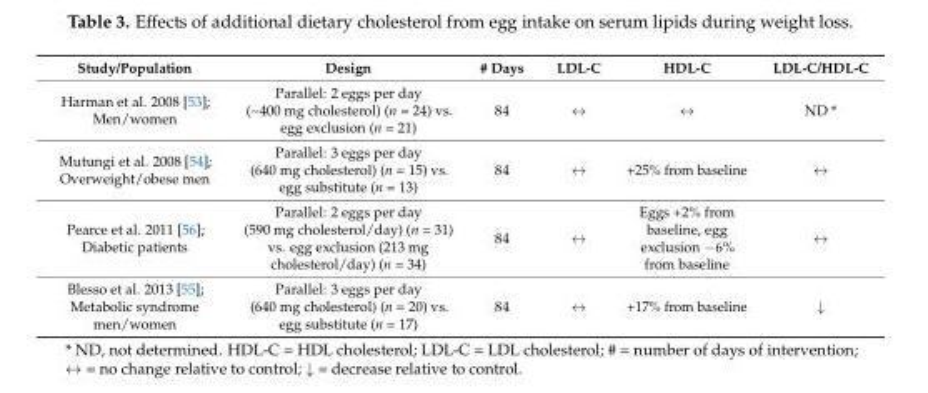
<table><thead><tr><td>Study/Population</td><td>Design</td><td># Days</td><td>LDL-C</td><td>HDL-C</td><td>LDL-C/HDL-C</td></tr></thead><tbody><tr><td>Harman et al. 2008 [53]; Men/women</td><td>Parallel: 2 eggs per day (~400 mg cholesterol) (n = 24) vs. egg exclusion (n = 21)</td><td>84</td><td>↔</td><td>↔</td><td>ND *</td></tr><tr><td>Mutungi et al. 2008 [54]; Overweight/obese men</td><td>Parallel: 3 eggs per day (640 mg cholesterol) (n = 15) vs. egg substitute (n = 13)</td><td>84</td><td>↔</td><td>+25% from baseline</td><td>↔</td></tr><tr><td>Pearce et al. 2011 [56]; Diabetic patients</td><td>Parallel: 2 eggs per day (590 mg cholesterol/day) (n = 31) vs. egg exclusion (213 mg cholesterol/day) (n = 34)</td><td>84</td><td>↔</td><td>Eggs +2% from baseline, egg exclusion −6% from baseline</td><td>↔</td></tr><tr><td>Blesso et al. 2013 [55]; Metabolic syndrome men/women</td><td>Parallel: 3 eggs per day (640 mg cholesterol) (n = 20) vs. egg substitute (n = 17)</td><td>84</td><td>↔</td><td>+17% from baseline</td><td>↓</td></tr></tbody></table>